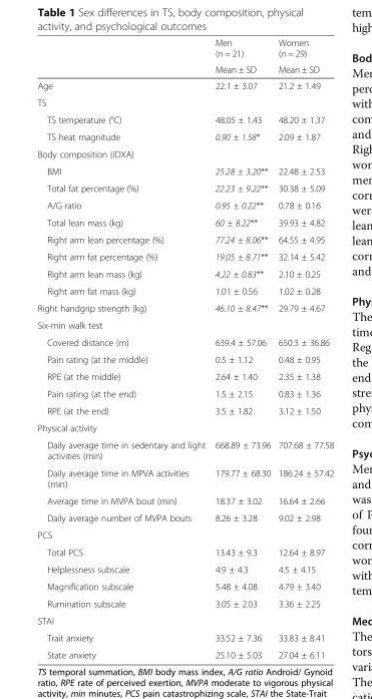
<table><thead><tr><td rowspan="2"></td><td rowspan="2">Men (n = 21) Mean ± SD</td><td rowspan="2">Women (n = 29) Mean ± SD</td></tr><tr></tr></thead><tbody><tr><td>Age</td><td>22.1 ± 3.07</td><td>21.2 ± 1.49</td></tr><tr><td colspan="3">TS</td></tr><tr><td>TS temperature (°C)</td><td>48.05 ± 1.43</td><td>48.20 ± 1.37</td></tr><tr><td>TS heat magnitude</td><td>0.90 ± 1.58*</td><td>2.09 ± 1.87</td></tr><tr><td colspan="3">Body composition (iDXA)</td></tr><tr><td>BMI</td><td>25.28 ± 3.20**</td><td>22.48 ± 2.53</td></tr><tr><td>Total fat percentage (%)</td><td>22.23 ± 9.22**</td><td>30.38 ± 5.09</td></tr><tr><td>A/G ratio</td><td>0.95 ± 0.22**</td><td>0.78 ± 0.16</td></tr><tr><td>Total lean mass (kg)</td><td>60 ± 8.22**</td><td>39.93 ± 4.82</td></tr><tr><td>Right arm lean percentage (%)</td><td>77.24 ± 8.06**</td><td>64.55 ± 4.95</td></tr><tr><td>Right arm fat percentage (%)</td><td>19.05 ± 8.71**</td><td>32.14 ± 5.42</td></tr><tr><td>Right arm lean mass (kg)</td><td>4.22 ± 0.83**</td><td>2.10 ± 0.25</td></tr><tr><td>Right arm fat mass (kg)</td><td>1.01 ± 0.56</td><td>1.02 ± 0.28</td></tr><tr><td>Right handgrip strength (kg)</td><td>46.10 ± 8.47**</td><td>29.79 ± 4.67</td></tr><tr><td colspan="3">Six-min walk test</td></tr><tr><td>Covered distance (m)</td><td>639.4 ± 57.06</td><td>650.3 ± 36.86</td></tr><tr><td>Pain rating (at the middle)</td><td>0.5 ± 1.12</td><td>0.48 ± 0.95</td></tr><tr><td>RPE (at the middle)</td><td>2.64 ± 1.40</td><td>2.35 ± 1.38</td></tr><tr><td>Pain rating (at the end)</td><td>1.5 ± 2.15</td><td>0.83 ± 1.36</td></tr><tr><td>RPE (at the end)</td><td>3.5 ± 1.82</td><td>3.12 ± 1.50</td></tr><tr><td colspan="3">Physical activity</td></tr><tr><td>Daily average time in sedentary and light activities (min)</td><td>668.89 ± 73.96</td><td>707.68 ± 77.58</td></tr><tr><td>Daily average time in MPVA activities (min)</td><td>179.77 ± 68.30</td><td>186.24 ± 57.42</td></tr><tr><td>Average time in MVPA bout (min)</td><td>18.37 ± 3.02</td><td>16.64 ± 2.66</td></tr><tr><td>Daily average number of MVPA bouts</td><td>8.26 ± 3.28</td><td>9.02 ± 2.98</td></tr><tr><td colspan="3">PCS</td></tr><tr><td>Total PCS</td><td>13.43 ± 9.3</td><td>12.64 ± 8.97</td></tr><tr><td>Helplessness subscale</td><td>4.9 ± 4.3</td><td>4.5 ± 4.15</td></tr><tr><td>Magnification subscale</td><td>5.48 ± 4.08</td><td>4.79 ± 3.40</td></tr><tr><td>Rumination subscale</td><td>3.05 ± 2.03</td><td>3.36 ± 2.25</td></tr><tr><td colspan="3">STAI</td></tr><tr><td>Trait anxiety</td><td>33.52 ± 7.36</td><td>33.83 ± 8.41</td></tr><tr><td>State anxiety</td><td>25.10 ± 5.03</td><td>27.04 ± 6.11</td></tr></tbody></table>